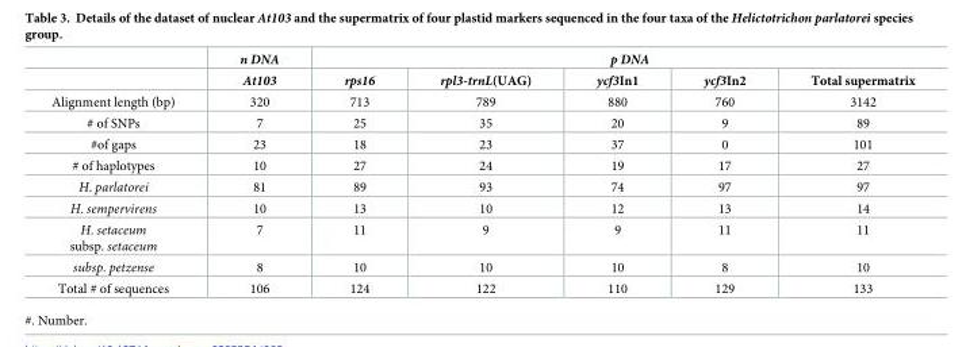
<table><thead><tr><td rowspan="2"></td><td rowspan="2">n DNA At103</td><td colspan="5">p DNA</td></tr><tr><td>rps16</td><td>rpl3-trnL(UAG)</td><td>ycf3In1</td><td>ycf3In2</td><td>Total supermatrix</td></tr></thead><tbody><tr><td>Alignment length (bp)</td><td>320</td><td>713</td><td>789</td><td>880</td><td>760</td><td>3142</td></tr><tr><td># of SNPs</td><td>7</td><td>25</td><td>35</td><td>20</td><td>9</td><td>89</td></tr><tr><td>#of gaps</td><td>23</td><td>18</td><td>23</td><td>37</td><td>0</td><td>101</td></tr><tr><td># of haplotypes</td><td>10</td><td>27</td><td>24</td><td>19</td><td>17</td><td>27</td></tr><tr><td>H. parlatorei</td><td>81</td><td>89</td><td>93</td><td>74</td><td>97</td><td>97</td></tr><tr><td>H. sempervirens</td><td>10</td><td>13</td><td>10</td><td>12</td><td>13</td><td>14</td></tr><tr><td>H. setaceum subsp. setaceum</td><td>7</td><td>11</td><td>9</td><td>9</td><td>11</td><td>11</td></tr><tr><td>subsp. petzense</td><td>8</td><td>10</td><td>10</td><td>10</td><td>8</td><td>10</td></tr><tr><td>Total # of sequences</td><td>106</td><td>124</td><td>122</td><td>110</td><td>129</td><td>133</td></tr></tbody></table>